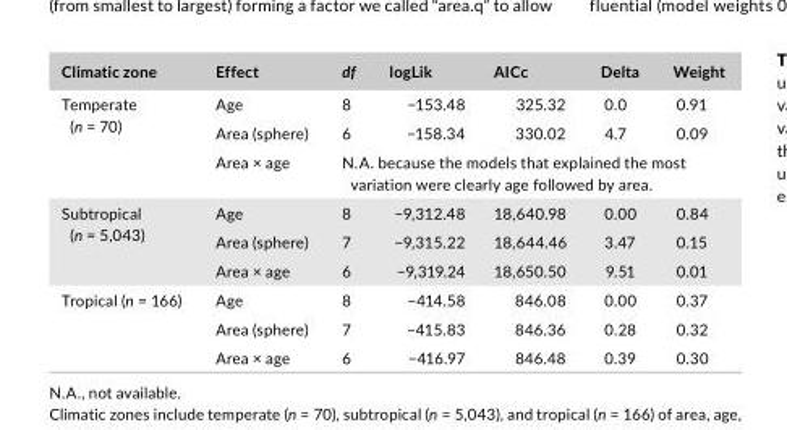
<table><thead><tr><td>Climatic zone</td><td>Effect</td><td>df</td><td>logLik</td><td>AICc</td><td>Delta</td><td>Weight</td></tr></thead><tbody><tr><td rowspan="3">Temperate (n = 70)</td><td>Age</td><td>8</td><td>−153.48</td><td>325.32</td><td>0.0</td><td>0.91</td></tr><tr><td>Area (sphere)</td><td>6</td><td>−158.34</td><td>330.02</td><td>4.7</td><td>0.09</td></tr><tr><td>Area × age</td><td colspan="5">N.A. because the models that explained the most variation were clearly age followed by area.</td></tr><tr><td rowspan="3">Subtropical (n = 5,043)</td><td>Age</td><td>8</td><td>−9,312.48</td><td>18,640.98</td><td>0.00</td><td>0.84</td></tr><tr><td>Area (sphere)</td><td>7</td><td>−9,315.22</td><td>18,644.46</td><td>3.47</td><td>0.15</td></tr><tr><td>Area × age</td><td>6</td><td>−9,319.24</td><td>18,650.50</td><td>9.51</td><td>0.01</td></tr><tr><td rowspan="3">Tropical (n = 166)</td><td>Age</td><td>8</td><td>−414.58</td><td>846.08</td><td>0.00</td><td>0.37</td></tr><tr><td>Area (sphere)</td><td>7</td><td>−415.83</td><td>846.36</td><td>0.28</td><td>0.32</td></tr><tr><td>Area × age</td><td>6</td><td>−416.97</td><td>846.48</td><td>0.39</td><td>0.30</td></tr></tbody></table>